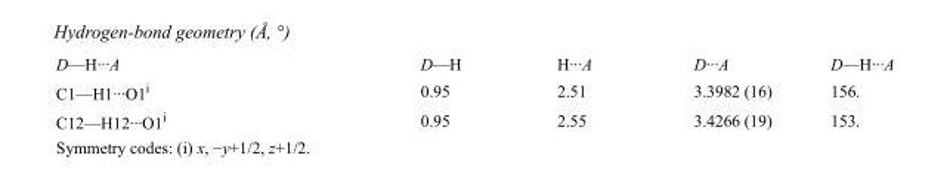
<table><tbody><tr><td>D—H···A</td><td>D—H</td><td>H···A</td><td>D···A</td><td>D—H···A</td></tr><tr><td>C1—H1···O1<sup>i</sup></td><td>0.95</td><td>2.51</td><td>3.3982 (16)</td><td>156.</td></tr><tr><td>C12—H12···O1<sup>i</sup></td><td>0.95</td><td>2.55</td><td>3.4266 (19)</td><td>153.</td></tr></tbody></table>